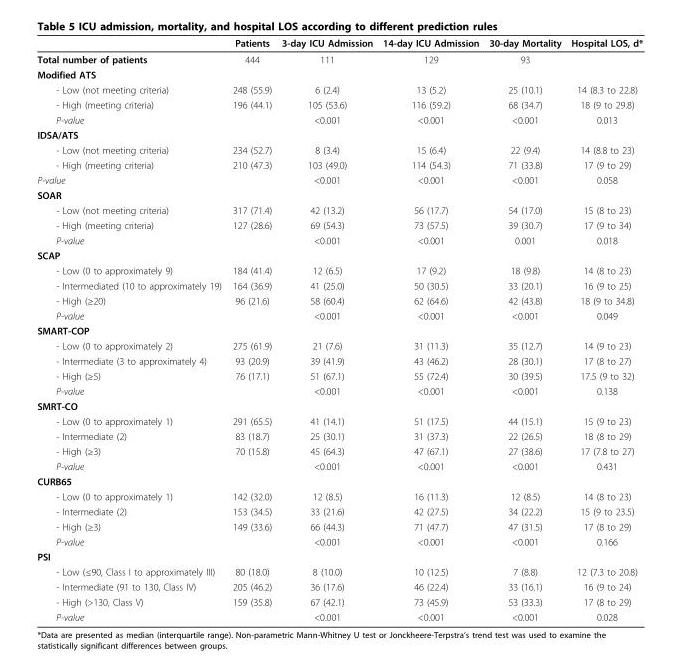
<table><thead><tr><td></td><td>Patients</td><td>3-day ICU Admission</td><td>14-day ICU Admission</td><td>30-day Mortality</td><td>Hospital LOS, d*</td></tr></thead><tbody><tr><td>Total number of patients</td><td>444</td><td>111</td><td>129</td><td>93</td><td></td></tr><tr><td colspan="6">Modified ATS</td></tr><tr><td>- Low (not meeting criteria)</td><td>248 (55.9)</td><td>6 (2.4)</td><td>13 (5.2)</td><td>25 (10.1)</td><td>14 (8.3 to 22.8)</td></tr><tr><td>- High (meeting criteria)</td><td>196 (44.1)</td><td>105 (53.6)</td><td>116 (59.2)</td><td>68 (34.7)</td><td>18 (9 to 29.8)</td></tr><tr><td>P-value</td><td></td><td>&lt;0.001</td><td>&lt;0.001</td><td>&lt;0.001</td><td>0.013</td></tr><tr><td colspan="6">IDSA/ATS</td></tr><tr><td>- Low (not meeting criteria)</td><td>234 (52.7)</td><td>8 (3.4)</td><td>15 (6.4)</td><td>22 (9.4)</td><td>14 (8.8 to 23)</td></tr><tr><td>- High (meeting criteria)</td><td>210 (47.3)</td><td>103 (49.0)</td><td>114 (54.3)</td><td>71 (33.8)</td><td>17 (9 to 29)</td></tr><tr><td>P-value</td><td></td><td>&lt;0.001</td><td>&lt;0.001</td><td>&lt;0.001</td><td>0.058</td></tr><tr><td colspan="6">SOAR</td></tr><tr><td>- Low (not meeting criteria)</td><td>317 (71.4)</td><td>42 (13.2)</td><td>56 (17.7)</td><td>54 (17.0)</td><td>15 (8 to 23)</td></tr><tr><td>- High (meeting criteria)</td><td>127 (28.6)</td><td>69 (54.3)</td><td>73 (57.5)</td><td>39 (30.7)</td><td>17 (9 to 34)</td></tr><tr><td>P-value</td><td></td><td>&lt;0.001</td><td>&lt;0.001</td><td>0.001</td><td>0.018</td></tr><tr><td colspan="6">SCAP</td></tr><tr><td>- Low (0 to approximately 9)</td><td>184 (41.4)</td><td>12 (6.5)</td><td>17 (9.2)</td><td>18 (9.8)</td><td>14 (8 to 23)</td></tr><tr><td>- Intermediated (10 to approximately 19)</td><td>164 (36.9)</td><td>41 (25.0)</td><td>50 (30.5)</td><td>33 (20.1)</td><td>16 (9 to 25)</td></tr><tr><td>- High (≥20)</td><td>96 (21.6)</td><td>58 (60.4)</td><td>62 (64.6)</td><td>42 (43.8)</td><td>18 (9 to 34.8)</td></tr><tr><td>P-value</td><td></td><td>&lt;0.001</td><td>&lt;0.001</td><td>&lt;0.001</td><td>0.049</td></tr><tr><td colspan="6">SMART-COP</td></tr><tr><td>- Low (0 to approximately 2)</td><td>275 (61.9)</td><td>21 (7.6)</td><td>31 (11.3)</td><td>35 (12.7)</td><td>14 (9 to 23)</td></tr><tr><td>- Intermediate (3 to approximately 4)</td><td>93 (20.9)</td><td>39 (41.9)</td><td>43 (46.2)</td><td>28 (30.1)</td><td>17 (8 to 27)</td></tr><tr><td>- High (≥5)</td><td>76 (17.1)</td><td>51 (67.1)</td><td>55 (72.4)</td><td>30 (39.5)</td><td>17.5 (9 to 32)</td></tr><tr><td>P-value</td><td></td><td>&lt;0.001</td><td>&lt;0.001</td><td>&lt;0.001</td><td>0.138</td></tr><tr><td colspan="6">SMRT-CO</td></tr><tr><td>- Low (0 to approximately 1)</td><td>291 (65.5)</td><td>41 (14.1)</td><td>51 (17.5)</td><td>44 (15.1)</td><td>15 (9 to 23)</td></tr><tr><td>- Intermediate (2)</td><td>83 (18.7)</td><td>25 (30.1)</td><td>31 (37.3)</td><td>22 (26.5)</td><td>18 (8 to 29)</td></tr><tr><td>- High (≥3)</td><td>70 (15.8)</td><td>45 (64.3)</td><td>47 (67.1)</td><td>27 (38.6)</td><td>17 (7.8 to 27)</td></tr><tr><td>P-value</td><td></td><td>&lt;0.001</td><td>&lt;0.001</td><td>&lt;0.001</td><td>0.431</td></tr><tr><td colspan="6">CURB65</td></tr><tr><td>- Low (0 to approximately 1)</td><td>142 (32.0)</td><td>12 (8.5)</td><td>16 (11.3)</td><td>12 (8.5)</td><td>14 (8 to 23)</td></tr><tr><td>- Intermediate (2)</td><td>153 (34.5)</td><td>33 (21.6)</td><td>42 (27.5)</td><td>34 (22.2)</td><td>15 (9 to 23.5)</td></tr><tr><td>- High (≥3)</td><td>149 (33.6)</td><td>66 (44.3)</td><td>71 (47.7)</td><td>47 (31.5)</td><td>17 (8 to 29)</td></tr><tr><td>P-value</td><td></td><td>&lt;0.001</td><td>&lt;0.001</td><td>&lt;0.001</td><td>0.166</td></tr><tr><td colspan="6">PSI</td></tr><tr><td>- Low (≤90, Class I to approximately III)</td><td>80 (18.0)</td><td>8 (10.0)</td><td>10 (12.5)</td><td>7 (8.8)</td><td>12 (7.3 to 20.8)</td></tr><tr><td>- Intermediate (91 to 130, Class IV)</td><td>205 (46.2)</td><td>36 (17.6)</td><td>46 (22.4)</td><td>33 (16.1)</td><td>16 (9 to 24)</td></tr><tr><td>- High (&gt;130, Class V)</td><td>159 (35.8)</td><td>67 (42.1)</td><td>73 (45.9)</td><td>53 (33.3)</td><td>17 (8 to 29)</td></tr><tr><td>P-value</td><td></td><td>&lt;0.001</td><td>&lt;0.001</td><td>&lt;0.001</td><td>0.028</td></tr></tbody></table>